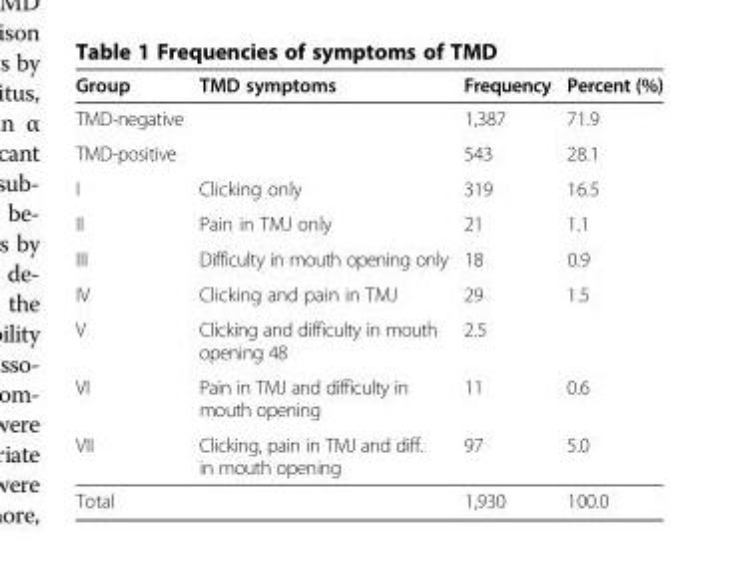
<table><thead><tr><td>Group</td><td>TMD symptoms</td><td>Frequency</td><td>Percent (%)</td></tr></thead><tbody><tr><td>TMD-negative</td><td></td><td>1,387</td><td>71.9</td></tr><tr><td>TMD-positive</td><td></td><td>543</td><td>28.1</td></tr><tr><td>I</td><td>Clicking only</td><td>319</td><td>16.5</td></tr><tr><td>II</td><td>Pain in TMJ only</td><td>21</td><td>1.1</td></tr><tr><td>III</td><td>Difficulty in mouth opening only</td><td>18</td><td>0.9</td></tr><tr><td>IV</td><td>Clicking and pain in TMJ</td><td>29</td><td>1.5</td></tr><tr><td>V</td><td>Clicking and difficulty in mouth opening 48</td><td>2.5</td><td></td></tr><tr><td>VI</td><td>Pain in TMJ and difficulty in mouth opening</td><td>11</td><td>0.6</td></tr><tr><td>VII</td><td>Clicking, pain in TMJ and diff. in mouth opening</td><td>97</td><td>5.0</td></tr><tr><td>Total</td><td></td><td>1,930</td><td>100.0</td></tr></tbody></table>